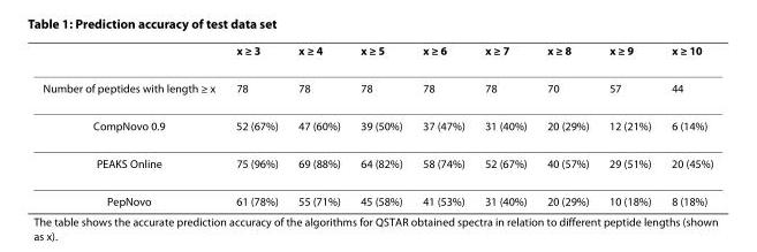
<table><thead><tr><td></td><td>x ≥ 3</td><td>x ≥ 4</td><td>x ≥ 5</td><td>x ≥ 6</td><td>x ≥ 7</td><td>x ≥ 8</td><td>x ≥ 9</td><td>x ≥ 10</td></tr></thead><tbody><tr><td>Number of peptides with length ≥ x</td><td>78</td><td>78</td><td>78</td><td>78</td><td>78</td><td>70</td><td>57</td><td>44</td></tr><tr><td>CompNovo 0.9</td><td>52 (67%)</td><td>47 (60%)</td><td>39 (50%)</td><td>37 (47%)</td><td>31 (40%)</td><td>20 (29%)</td><td>12 (21%)</td><td>6 (14%)</td></tr><tr><td>PEAKS Online</td><td>75 (96%)</td><td>69 (88%)</td><td>64 (82%)</td><td>58 (74%)</td><td>52 (67%)</td><td>40 (57%)</td><td>29 (51%)</td><td>20 (45%)</td></tr><tr><td>PepNovo</td><td>61 (78%)</td><td>55 (71%)</td><td>45 (58%)</td><td>41 (53%)</td><td>31 (40%)</td><td>20 (29%)</td><td>10 (18%)</td><td>8 (18%)</td></tr></tbody></table>